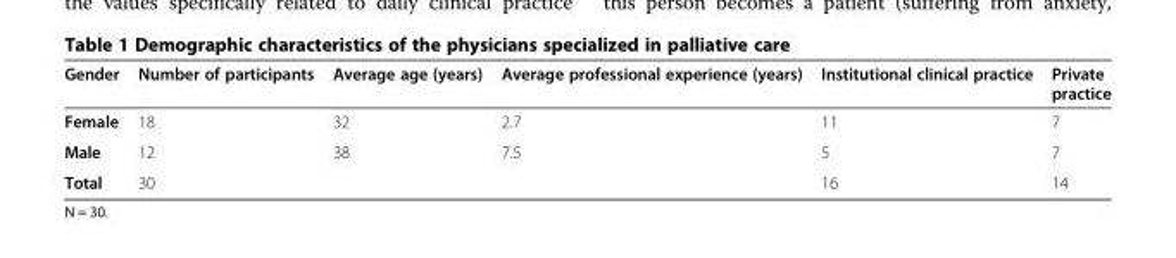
<table><thead><tr><td>Gender</td><td>Number of participants</td><td>Average age (years)</td><td>Average professional experience (years)</td><td>Institutional clinical practice</td><td>Private practice</td></tr></thead><tbody><tr><td>Female</td><td>18</td><td>32</td><td>2.7</td><td>11</td><td>7</td></tr><tr><td>Male</td><td>12</td><td>38</td><td>7.5</td><td>5</td><td>7</td></tr><tr><td>Total</td><td>30</td><td></td><td></td><td>16</td><td>14</td></tr></tbody></table>